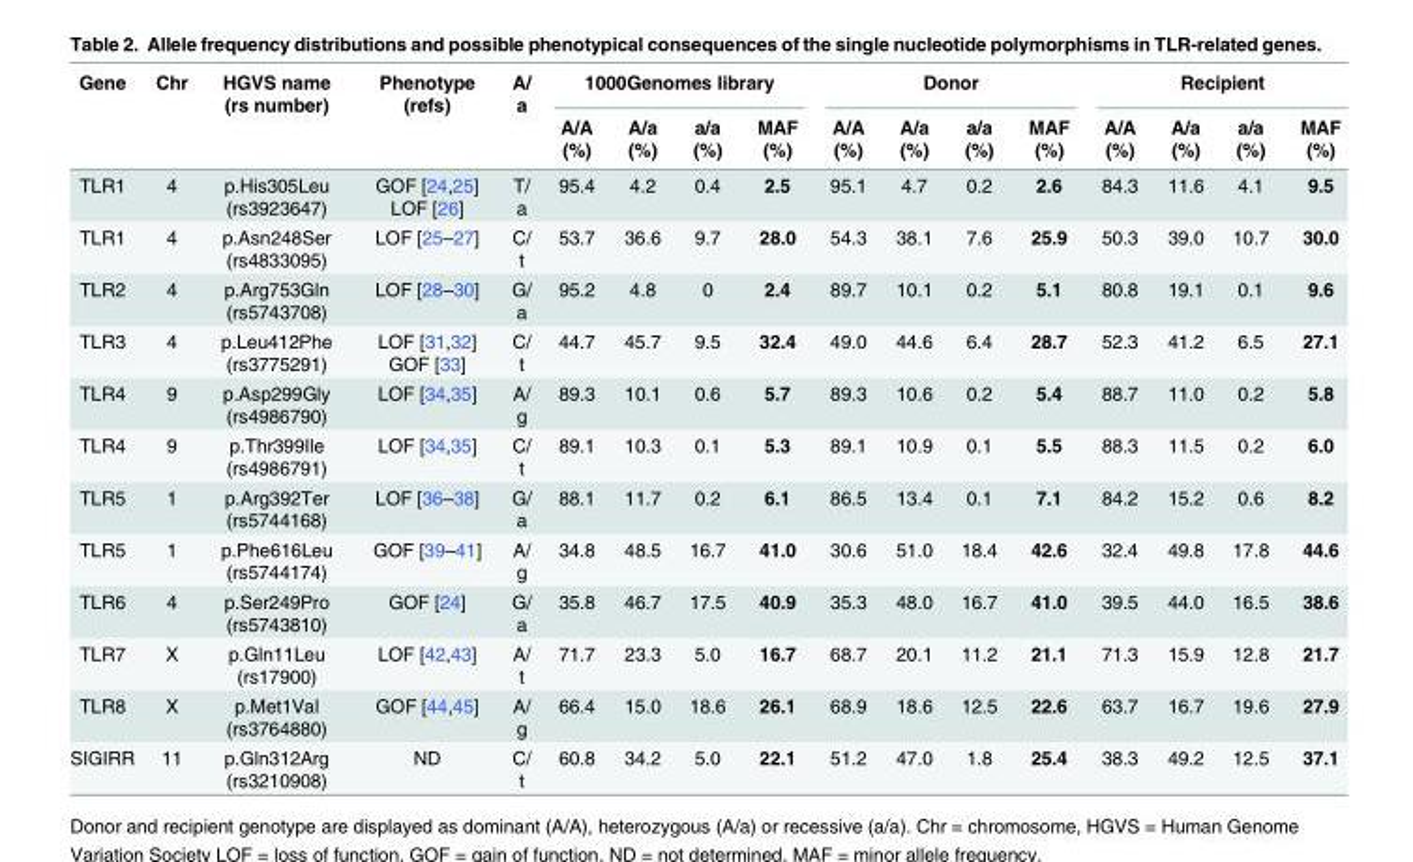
<table><thead><tr><td rowspan="2">Gene</td><td rowspan="2">Chr</td><td rowspan="2">HGVS name (rs number)</td><td rowspan="2">Phenotype (refs)</td><td rowspan="2">A/ a</td><td colspan="4">1000Genomes library</td><td colspan="4">Donor</td><td colspan="4">Recipient</td></tr><tr><td>A/A (%)</td><td>A/a (%)</td><td>a/a (%)</td><td>MAF (%)</td><td>A/A (%)</td><td>A/a (%)</td><td>a/a (%)</td><td>MAF (%)</td><td>A/A (%)</td><td>A/a (%)</td><td>a/a (%)</td><td>MAF (%)</td></tr></thead><tbody><tr><td>TLR1</td><td>4</td><td>p.His305Leu (rs3923647)</td><td>GOF [24,25] LOF [26]</td><td>T/ a</td><td>95.4</td><td>4.2</td><td>0.4</td><td>2.5</td><td>95.1</td><td>4.7</td><td>0.2</td><td>2.6</td><td>84.3</td><td>11.6</td><td>4.1</td><td>9.5</td></tr><tr><td>TLR1</td><td>4</td><td>p.Asn248Ser (rs4833095)</td><td>LOF [25–27]</td><td>C/ t</td><td>53.7</td><td>36.6</td><td>9.7</td><td>28.0</td><td>54.3</td><td>38.1</td><td>7.6</td><td>25.9</td><td>50.3</td><td>39.0</td><td>10.7</td><td>30.0</td></tr><tr><td>TLR2</td><td>4</td><td>p.Arg753Gln (rs5743708)</td><td>LOF [28–30]</td><td>G/ a</td><td>95.2</td><td>4.8</td><td>0</td><td>2.4</td><td>89.7</td><td>10.1</td><td>0.2</td><td>5.1</td><td>80.8</td><td>19.1</td><td>0.1</td><td>9.6</td></tr><tr><td>TLR3</td><td>4</td><td>p.Leu412Phe (rs3775291)</td><td>LOF [31,32] GOF [33]</td><td>C/ t</td><td>44.7</td><td>45.7</td><td>9.5</td><td>32.4</td><td>49.0</td><td>44.6</td><td>6.4</td><td>28.7</td><td>52.3</td><td>41.2</td><td>6.5</td><td>27.1</td></tr><tr><td>TLR4</td><td>9</td><td>p.Asp299Gly (rs4986790)</td><td>LOF [34,35]</td><td>A/ g</td><td>89.3</td><td>10.1</td><td>0.6</td><td>5.7</td><td>89.3</td><td>10.6</td><td>0.2</td><td>5.4</td><td>88.7</td><td>11.0</td><td>0.2</td><td>5.8</td></tr><tr><td>TLR4</td><td>9</td><td>p.Thr399Ile (rs4986791)</td><td>LOF [34,35]</td><td>C/ t</td><td>89.1</td><td>10.3</td><td>0.1</td><td>5.3</td><td>89.1</td><td>10.9</td><td>0.1</td><td>5.5</td><td>88.3</td><td>11.5</td><td>0.2</td><td>6.0</td></tr><tr><td>TLR5</td><td>1</td><td>p.Arg392Ter (rs5744168)</td><td>LOF [36–38]</td><td>G/ a</td><td>88.1</td><td>11.7</td><td>0.2</td><td>6.1</td><td>86.5</td><td>13.4</td><td>0.1</td><td>7.1</td><td>84.2</td><td>15.2</td><td>0.6</td><td>8.2</td></tr><tr><td>TLR5</td><td>1</td><td>p.Phe616Leu (rs5744174)</td><td>GOF [39–41]</td><td>A/ g</td><td>34.8</td><td>48.5</td><td>16.7</td><td>41.0</td><td>30.6</td><td>51.0</td><td>18.4</td><td>42.6</td><td>32.4</td><td>49.8</td><td>17.8</td><td>44.6</td></tr><tr><td>TLR6</td><td>4</td><td>p.Ser249Pro (rs5743810)</td><td>GOF [24]</td><td>G/ a</td><td>35.8</td><td>46.7</td><td>17.5</td><td>40.9</td><td>35.3</td><td>48.0</td><td>16.7</td><td>41.0</td><td>39.5</td><td>44.0</td><td>16.5</td><td>38.6</td></tr><tr><td>TLR7</td><td>X</td><td>p.Gln11Leu (rs17900)</td><td>LOF [42,43]</td><td>A/ t</td><td>71.7</td><td>23.3</td><td>5.0</td><td>16.7</td><td>68.7</td><td>20.1</td><td>11.2</td><td>21.1</td><td>71.3</td><td>15.9</td><td>12.8</td><td>21.7</td></tr><tr><td>TLR8</td><td>X</td><td>p.Met1Val (rs3764880)</td><td>GOF [44,45]</td><td>A/ g</td><td>66.4</td><td>15.0</td><td>18.6</td><td>26.1</td><td>68.9</td><td>18.6</td><td>12.5</td><td>22.6</td><td>63.7</td><td>16.7</td><td>19.6</td><td>27.9</td></tr><tr><td>SIGIRR</td><td>11</td><td>p.Gln312Arg (rs3210908)</td><td>ND</td><td>C/ t</td><td>60.8</td><td>34.2</td><td>5.0</td><td>22.1</td><td>51.2</td><td>47.0</td><td>1.8</td><td>25.4</td><td>38.3</td><td>49.2</td><td>12.5</td><td>37.1</td></tr></tbody></table>